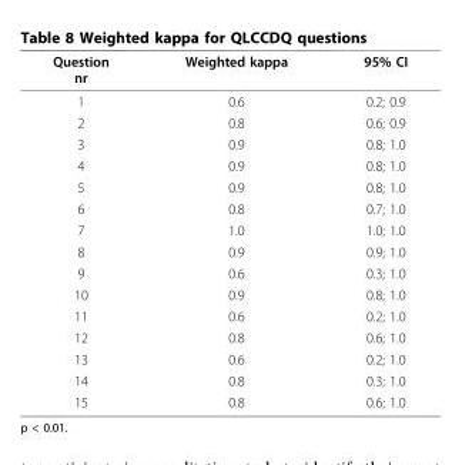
<table><thead><tr><td>Question nr</td><td>Weighted kappa</td><td>95% CI</td></tr></thead><tbody><tr><td>1</td><td>0.6</td><td>0.2; 0.9</td></tr><tr><td>2</td><td>0.8</td><td>0.6; 0.9</td></tr><tr><td>3</td><td>0.9</td><td>0.8; 1.0</td></tr><tr><td>4</td><td>0.9</td><td>0.8; 1.0</td></tr><tr><td>5</td><td>0.9</td><td>0.8; 1.0</td></tr><tr><td>6</td><td>0.8</td><td>0.7; 1.0</td></tr><tr><td>7</td><td>1.0</td><td>1.0; 1.0</td></tr><tr><td>8</td><td>0.9</td><td>0.9; 1.0</td></tr><tr><td>9</td><td>0.6</td><td>0.3; 1.0</td></tr><tr><td>10</td><td>0.9</td><td>0.8; 1.0</td></tr><tr><td>11</td><td>0.6</td><td>0.2; 1.0</td></tr><tr><td>12</td><td>0.8</td><td>0.6; 1.0</td></tr><tr><td>13</td><td>0.6</td><td>0.2; 1.0</td></tr><tr><td>14</td><td>0.8</td><td>0.3; 1.0</td></tr><tr><td>15</td><td>0.8</td><td>0.6; 1.0</td></tr></tbody></table>